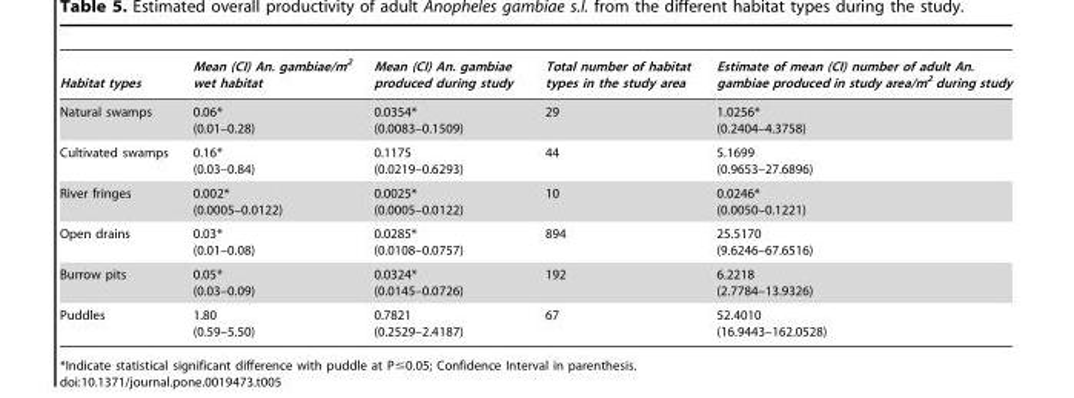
<table><thead><tr><td>Habitat types</td><td>Mean (CI) An. gambiae/m<sup>2</sup> wet habitat</td><td>Mean (CI) An. gambiae produced during study</td><td>Total number of habitat types in the study area</td><td>Estimate of mean (CI) number of adult An. gambiae produced in study area/m<sup>2</sup> during study</td></tr></thead><tbody><tr><td>Natural swamps</td><td>0.06* (0.01–0.28)</td><td>0.0354* (0.0083–0.1509)</td><td>29</td><td>1.0256* (0.2404–4.3758)</td></tr><tr><td>Cultivated swamps</td><td>0.16* (0.03–0.84)</td><td>0.1175 (0.0219–0.6293)</td><td>44</td><td>5.1699 (0.9653–27.6896)</td></tr><tr><td>River fringes</td><td>0.002* (0.0005–0.0122)</td><td>0.0025* (0.0005–0.0122)</td><td>10</td><td>0.0246* (0.0050–0.1221)</td></tr><tr><td>Open drains</td><td>0.03* (0.01–0.08)</td><td>0.0285* (0.0108–0.0757)</td><td>894</td><td>25.5170 (9.6246–67.6516)</td></tr><tr><td>Burrow pits</td><td>0.05* (0.03–0.09)</td><td>0.0324* (0.0145–0.0726)</td><td>192</td><td>6.2218 (2.7784–13.9326)</td></tr><tr><td>Puddles</td><td>1.80 (0.59–5.50)</td><td>0.7821 (0.2529–2.4187)</td><td>67</td><td>52.4010 (16.9443–162.0528)</td></tr></tbody></table>